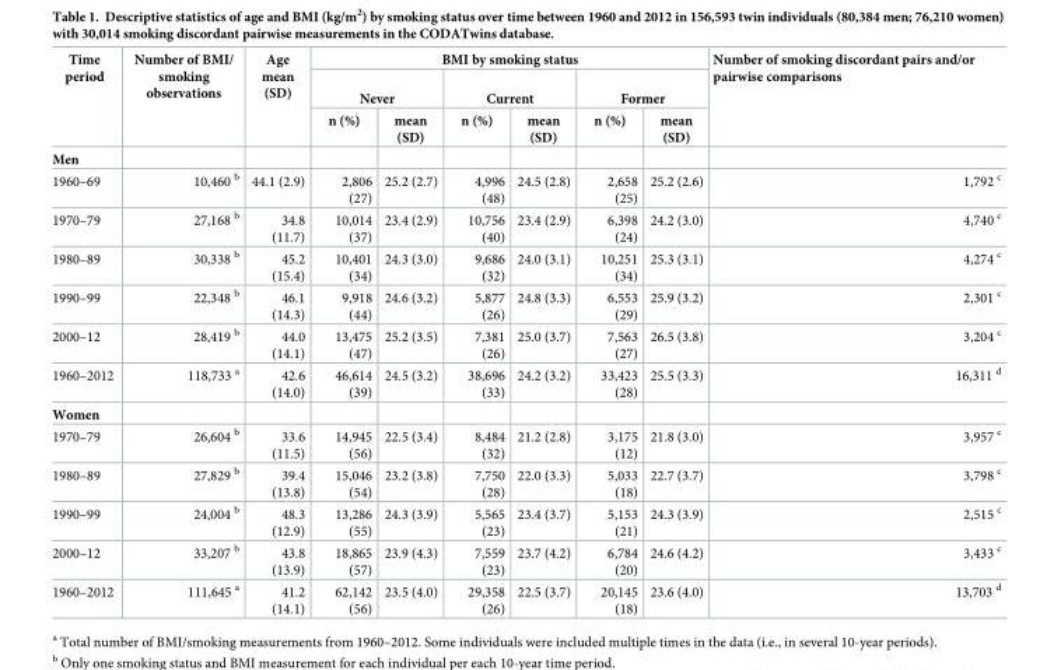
<table><thead><tr><td rowspan="3">Time period</td><td rowspan="3">Number of BMI/ smoking observations</td><td rowspan="3">Age mean (SD)</td><td colspan="6">BMI by smoking status</td><td rowspan="3">Number of smoking discordant pairs and/or pairwise comparisons</td></tr><tr><td colspan="2">Never</td><td colspan="2">Current</td><td colspan="2">Former</td></tr><tr><td>n (%)</td><td>mean (SD)</td><td>n (%)</td><td>mean (SD)</td><td>n (%)</td><td>mean (SD)</td></tr></thead><tbody><tr><td colspan="10">Men</td></tr><tr><td>1960–69</td><td>10,460 <sup>b</sup></td><td>44.1 (2.9)</td><td>2,806 (27)</td><td>25.2 (2.7)</td><td>4,996 (48)</td><td>24.5 (2.8)</td><td>2,658 (25)</td><td>25.2 (2.6)</td><td>1,792 <sup>c</sup></td></tr><tr><td>1970–79</td><td>27,168 <sup>b</sup></td><td>34.8 (11.7)</td><td>10,014 (37)</td><td>23.4 (2.9)</td><td>10,756 (40)</td><td>23.4 (2.9)</td><td>6,398 (24)</td><td>24.2 (3.0)</td><td>4,740 <sup>c</sup></td></tr><tr><td>1980–89</td><td>30,338 <sup>b</sup></td><td>45.2 (15.4)</td><td>10,401 (34)</td><td>24.3 (3.0)</td><td>9,686 (32)</td><td>24.0 (3.1)</td><td>10,251 (34)</td><td>25.3 (3.1)</td><td>4,274 <sup>c</sup></td></tr><tr><td>1990–99</td><td>22,348 <sup>b</sup></td><td>46.1 (14.3)</td><td>9,918 (44)</td><td>24.6 (3.2)</td><td>5,877 (26)</td><td>24.8 (3.3)</td><td>6,553 (29)</td><td>25.9 (3.2)</td><td>2,301 <sup>c</sup></td></tr><tr><td>2000–12</td><td>28,419 <sup>b</sup></td><td>44.0 (14.1)</td><td>13,475 (47)</td><td>25.2 (3.5)</td><td>7,381 (26)</td><td>25.0 (3.7)</td><td>7,563 (27)</td><td>26.5 (3.8)</td><td>3,204 <sup>c</sup></td></tr><tr><td>1960–2012</td><td>118,733 <sup>a</sup></td><td>42.6 (14.0)</td><td>46,614 (39)</td><td>24.5 (3.2)</td><td>38,696 (33)</td><td>24.2 (3.2)</td><td>33,423 (28)</td><td>25.5 (3.3)</td><td>16,311 <sup>d</sup></td></tr><tr><td colspan="10">Women</td></tr><tr><td>1970–79</td><td>26,604 <sup>b</sup></td><td>33.6 (11.5)</td><td>14,945 (56)</td><td>22.5 (3.4)</td><td>8,484 (32)</td><td>21.2 (2.8)</td><td>3,175 (12)</td><td>21.8 (3.0)</td><td>3,957 <sup>c</sup></td></tr><tr><td>1980–89</td><td>27,829 <sup>b</sup></td><td>39.4 (13.8)</td><td>15,046 (54)</td><td>23.2 (3.8)</td><td>7,750 (28)</td><td>22.0 (3.3)</td><td>5,033 (18)</td><td>22.7 (3.7)</td><td>3,798 <sup>c</sup></td></tr><tr><td>1990–99</td><td>24,004 <sup>b</sup></td><td>48.3 (12.9)</td><td>13,286 (55)</td><td>24.3 (3.9)</td><td>5,565 (23)</td><td>23.4 (3.7)</td><td>5,153 (21)</td><td>24.3 (3.9)</td><td>2,515 <sup>c</sup></td></tr><tr><td>2000–12</td><td>33,207 <sup>b</sup></td><td>43.8 (13.9)</td><td>18,865 (57)</td><td>23.9 (4.3)</td><td>7,559 (23)</td><td>23.7 (4.2)</td><td>6,784 (20)</td><td>24.6 (4.2)</td><td>3,433 <sup>c</sup></td></tr><tr><td>1960–2012</td><td>111,645 <sup>a</sup></td><td>41.2 (14.1)</td><td>62,142 (56)</td><td>23.5 (4.0)</td><td>29,358 (26)</td><td>22.5 (3.7)</td><td>20,145 (18)</td><td>23.6 (4.0)</td><td>13,703 <sup>d</sup></td></tr></tbody></table>